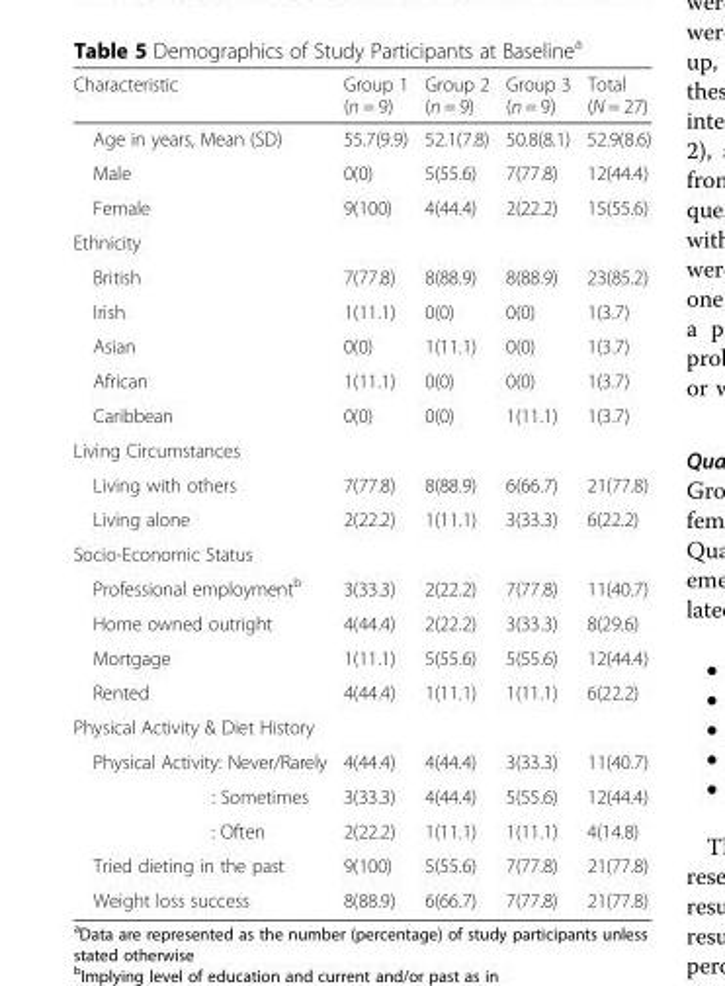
<table><thead><tr><td>Characteristic</td><td>Group 1 (n = 9)</td><td>Group 2 (n = 9)</td><td>Group 3 (n = 9)</td><td>Total (N = 27)</td></tr></thead><tbody><tr><td>Age in years, Mean (SD)</td><td>55.7(9.9)</td><td>52.1(7.8)</td><td>50.8(8.1)</td><td>52.9(8.6)</td></tr><tr><td>Male</td><td>0(0)</td><td>5(55.6)</td><td>7(77.8)</td><td>12(44.4)</td></tr><tr><td>Female</td><td>9(100)</td><td>4(44.4)</td><td>2(22.2)</td><td>15(55.6)</td></tr><tr><td colspan="5">Ethnicity</td></tr><tr><td>British</td><td>7(77.8)</td><td>8(88.9)</td><td>8(88.9)</td><td>23(85.2)</td></tr><tr><td>Irish</td><td>1(11.1)</td><td>0(0)</td><td>0(0)</td><td>1(3.7)</td></tr><tr><td>Asian</td><td>0(0)</td><td>1(11.1)</td><td>0(0)</td><td>1(3.7)</td></tr><tr><td>African</td><td>1(11.1)</td><td>0(0)</td><td>0(0)</td><td>1(3.7)</td></tr><tr><td>Caribbean</td><td>0(0)</td><td>0(0)</td><td>1(11.1)</td><td>1(3.7)</td></tr><tr><td colspan="5">Living Circumstances</td></tr><tr><td>Living with others</td><td>7(77.8)</td><td>8(88.9)</td><td>6(66.7)</td><td>21(77.8)</td></tr><tr><td>Living alone</td><td>2(22.2)</td><td>1(11.1)</td><td>3(33.3)</td><td>6(22.2)</td></tr><tr><td colspan="5">Socio-Economic Status</td></tr><tr><td>Professional employment<sup>b</sup></td><td>3(33.3)</td><td>2(22.2)</td><td>7(77.8)</td><td>11(40.7)</td></tr><tr><td>Home owned outright</td><td>4(44.4)</td><td>2(22.2)</td><td>3(33.3)</td><td>8(29.6)</td></tr><tr><td>Mortgage</td><td>1(11.1)</td><td>5(55.6)</td><td>5(55.6)</td><td>12(44.4)</td></tr><tr><td>Rented</td><td>4(44.4)</td><td>1(11.1)</td><td>1(11.1)</td><td>6(22.2)</td></tr><tr><td colspan="5">Physical Activity &amp; Diet History</td></tr><tr><td>Physical Activity: Never/Rarely</td><td>4(44.4)</td><td>4(44.4)</td><td>3(33.3)</td><td>11(40.7)</td></tr><tr><td>: Sometimes</td><td>3(33.3)</td><td>4(44.4)</td><td>5(55.6)</td><td>12(44.4)</td></tr><tr><td>: Often</td><td>2(22.2)</td><td>1(11.1)</td><td>1(11.1)</td><td>4(14.8)</td></tr><tr><td>Tried dieting in the past</td><td>9(100)</td><td>5(55.6)</td><td>7(77.8)</td><td>21(77.8)</td></tr><tr><td>Weight loss success</td><td>8(88.9)</td><td>6(66.7)</td><td>7(77.8)</td><td>21(77.8)</td></tr></tbody></table>